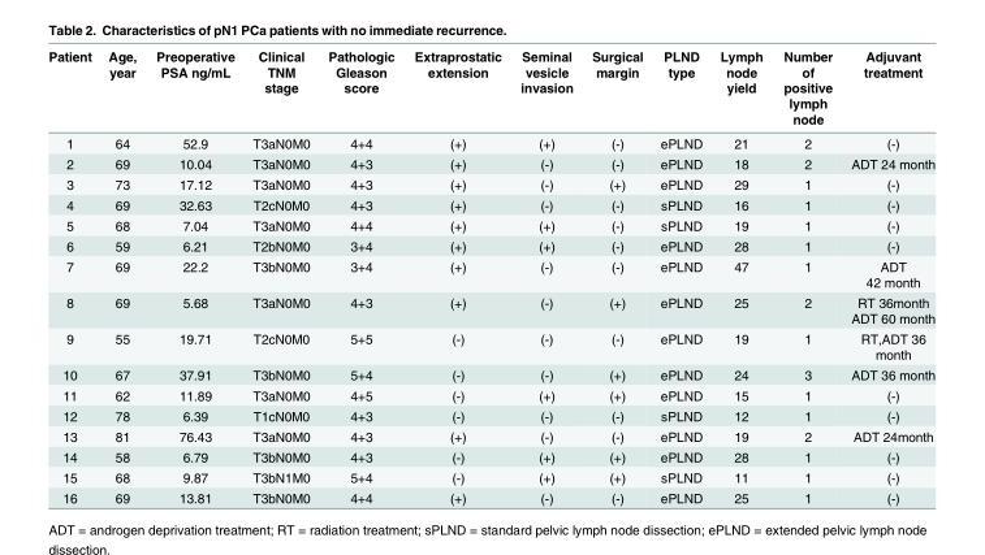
<table><thead><tr><td>Patient</td><td>Age, year</td><td>Preoperative PSA ng/mL</td><td>Clinical TNM stage</td><td>Pathologic Gleason score</td><td>Extraprostatic extension</td><td>Seminal vesicle invasion</td><td>Surgical margin</td><td>PLND type</td><td>Lymph node yield</td><td>Number of positive lymph node</td><td>Adjuvant treatment</td></tr></thead><tbody><tr><td>1</td><td>64</td><td>52.9</td><td>T3aN0M0</td><td>4+4</td><td>(+)</td><td>(+)</td><td>(-)</td><td>ePLND</td><td>21</td><td>2</td><td>(-)</td></tr><tr><td>2</td><td>69</td><td>10.04</td><td>T3aN0M0</td><td>4+3</td><td>(+)</td><td>(-)</td><td>(-)</td><td>ePLND</td><td>18</td><td>2</td><td>ADT 24 month</td></tr><tr><td>3</td><td>73</td><td>17.12</td><td>T3aN0M0</td><td>4+3</td><td>(+)</td><td>(-)</td><td>(+)</td><td>ePLND</td><td>29</td><td>1</td><td>(-)</td></tr><tr><td>4</td><td>69</td><td>32.63</td><td>T2cN0M0</td><td>4+3</td><td>(+)</td><td>(-)</td><td>(-)</td><td>sPLND</td><td>16</td><td>1</td><td>(-)</td></tr><tr><td>5</td><td>68</td><td>7.04</td><td>T3aN0M0</td><td>4+4</td><td>(+)</td><td>(+)</td><td>(-)</td><td>sPLND</td><td>19</td><td>1</td><td>(-)</td></tr><tr><td>6</td><td>59</td><td>6.21</td><td>T2bN0M0</td><td>3+4</td><td>(+)</td><td>(+)</td><td>(-)</td><td>ePLND</td><td>28</td><td>1</td><td>(-)</td></tr><tr><td>7</td><td>69</td><td>22.2</td><td>T3bN0M0</td><td>3+4</td><td>(+)</td><td>(-)</td><td>(-)</td><td>ePLND</td><td>47</td><td>1</td><td>ADT 42 month</td></tr><tr><td>8</td><td>69</td><td>5.68</td><td>T3aN0M0</td><td>4+3</td><td>(+)</td><td>(-)</td><td>(+)</td><td>ePLND</td><td>25</td><td>2</td><td>RT 36month ADT 60 month</td></tr><tr><td>9</td><td>55</td><td>19.71</td><td>T2cN0M0</td><td>5+5</td><td>(-)</td><td>(-)</td><td>(-)</td><td>ePLND</td><td>19</td><td>1</td><td>RT,ADT 36 month</td></tr><tr><td>10</td><td>67</td><td>37.91</td><td>T3bN0M0</td><td>5+4</td><td>(-)</td><td>(-)</td><td>(+)</td><td>ePLND</td><td>24</td><td>3</td><td>ADT 36 month</td></tr><tr><td>11</td><td>62</td><td>11.89</td><td>T3aN0M0</td><td>4+5</td><td>(-)</td><td>(+)</td><td>(+)</td><td>ePLND</td><td>15</td><td>1</td><td>(-)</td></tr><tr><td>12</td><td>78</td><td>6.39</td><td>T1cN0M0</td><td>4+3</td><td>(-)</td><td>(-)</td><td>(-)</td><td>sPLND</td><td>12</td><td>1</td><td>(-)</td></tr><tr><td>13</td><td>81</td><td>76.43</td><td>T3aN0M0</td><td>4+3</td><td>(+)</td><td>(-)</td><td>(-)</td><td>ePLND</td><td>19</td><td>2</td><td>ADT 24month</td></tr><tr><td>14</td><td>58</td><td>6.79</td><td>T3bN0M0</td><td>4+3</td><td>(-)</td><td>(+)</td><td>(+)</td><td>ePLND</td><td>28</td><td>1</td><td>(-)</td></tr><tr><td>15</td><td>68</td><td>9.87</td><td>T3bN1M0</td><td>5+4</td><td>(-)</td><td>(+)</td><td>(+)</td><td>sPLND</td><td>11</td><td>1</td><td>(-)</td></tr><tr><td>16</td><td>69</td><td>13.81</td><td>T3bN0M0</td><td>4+4</td><td>(+)</td><td>(-)</td><td>(-)</td><td>ePLND</td><td>25</td><td>1</td><td>(-)</td></tr></tbody></table>